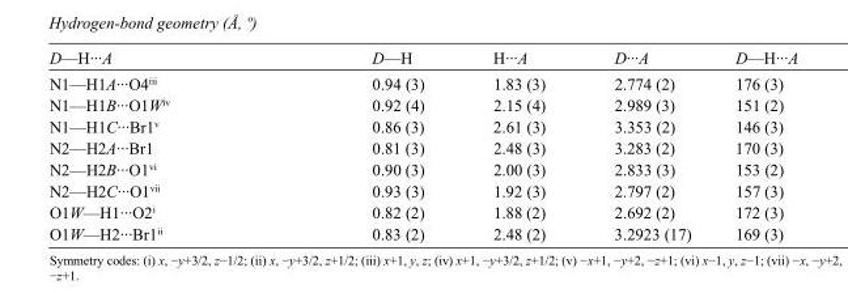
<table><tbody><tr><td>D—H···A</td><td>D—H</td><td>H···A</td><td>D···A</td><td>D—H···A</td></tr><tr><td>N1—H1A···O4<sup>iii</sup></td><td>0.94 (3)</td><td>1.83 (3)</td><td>2.774 (2)</td><td>176 (3)</td></tr><tr><td>N1—H1B···O1W<sup>iv</sup></td><td>0.92 (4)</td><td>2.15 (4)</td><td>2.989 (3)</td><td>151 (2)</td></tr><tr><td>N1—H1C···Br1<sup>v</sup></td><td>0.86 (3)</td><td>2.61 (3)</td><td>3.353 (2)</td><td>146 (3)</td></tr><tr><td>N2—H2A···Br1</td><td>0.81 (3)</td><td>2.48 (3)</td><td>3.283 (2)</td><td>170 (3)</td></tr><tr><td>N2—H2B···O1<sup>vi</sup></td><td>0.90 (3)</td><td>2.00 (3)</td><td>2.833 (3)</td><td>153 (2)</td></tr><tr><td>N2—H2C···O1<sup>vii</sup></td><td>0.93 (3)</td><td>1.92 (3)</td><td>2.797 (2)</td><td>157 (3)</td></tr><tr><td>O1W—H1···O2<sup>i</sup></td><td>0.82 (2)</td><td>1.88 (2)</td><td>2.692 (2)</td><td>172 (3)</td></tr><tr><td>O1W—H2···Br1<sup>ii</sup></td><td>0.83 (2)</td><td>2.48 (2)</td><td>3.2923 (17)</td><td>169 (3)</td></tr></tbody></table>